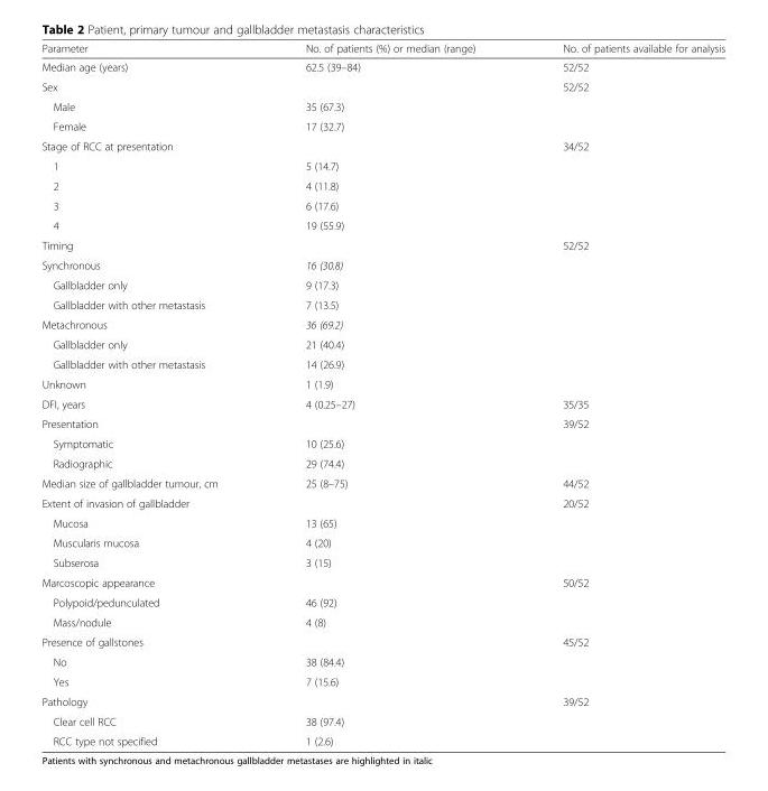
<table><thead><tr><td>Parameter</td><td>No. of patients (%) or median (range)</td><td>No. of patients available for analysis</td></tr></thead><tbody><tr><td>Median age (years)</td><td>62.5 (39–84)</td><td>52/52</td></tr><tr><td>Sex</td><td></td><td>52/52</td></tr><tr><td>Male</td><td>35 (67.3)</td><td></td></tr><tr><td>Female</td><td>17 (32.7)</td><td></td></tr><tr><td>Stage of RCC at presentation</td><td></td><td>34/52</td></tr><tr><td>1</td><td>5 (14.7)</td><td></td></tr><tr><td>2</td><td>4 (11.8)</td><td></td></tr><tr><td>3</td><td>6 (17.6)</td><td></td></tr><tr><td>4</td><td>19 (55.9)</td><td></td></tr><tr><td>Timing</td><td></td><td>52/52</td></tr><tr><td>Synchronous</td><td>16 (30.8)</td><td></td></tr><tr><td>Gallbladder only</td><td>9 (17.3)</td><td></td></tr><tr><td>Gallbladder with other metastasis</td><td>7 (13.5)</td><td></td></tr><tr><td>Metachronous</td><td>36 (69.2)</td><td></td></tr><tr><td>Gallbladder only</td><td>21 (40.4)</td><td></td></tr><tr><td>Gallbladder with other metastasis</td><td>14 (26.9)</td><td></td></tr><tr><td>Unknown</td><td>1 (1.9)</td><td></td></tr><tr><td>DFI, years</td><td>4 (0.25–27)</td><td>35/35</td></tr><tr><td>Presentation</td><td></td><td>39/52</td></tr><tr><td>Symptomatic</td><td>10 (25.6)</td><td></td></tr><tr><td>Radiographic</td><td>29 (74.4)</td><td></td></tr><tr><td>Median size of gallbladder tumour, cm</td><td>25 (8–75)</td><td>44/52</td></tr><tr><td>Extent of invasion of gallbladder</td><td></td><td>20/52</td></tr><tr><td>Mucosa</td><td>13 (65)</td><td></td></tr><tr><td>Muscularis mucosa</td><td>4 (20)</td><td></td></tr><tr><td>Subserosa</td><td>3 (15)</td><td></td></tr><tr><td>Marcoscopic appearance</td><td></td><td>50/52</td></tr><tr><td>Polypoid/pedunculated</td><td>46 (92)</td><td></td></tr><tr><td>Mass/nodule</td><td>4 (8)</td><td></td></tr><tr><td>Presence of gallstones</td><td></td><td>45/52</td></tr><tr><td>No</td><td>38 (84.4)</td><td></td></tr><tr><td>Yes</td><td>7 (15.6)</td><td></td></tr><tr><td>Pathology</td><td></td><td>39/52</td></tr><tr><td>Clear cell RCC</td><td>38 (97.4)</td><td></td></tr><tr><td>RCC type not specified</td><td>1 (2.6)</td><td></td></tr></tbody></table>